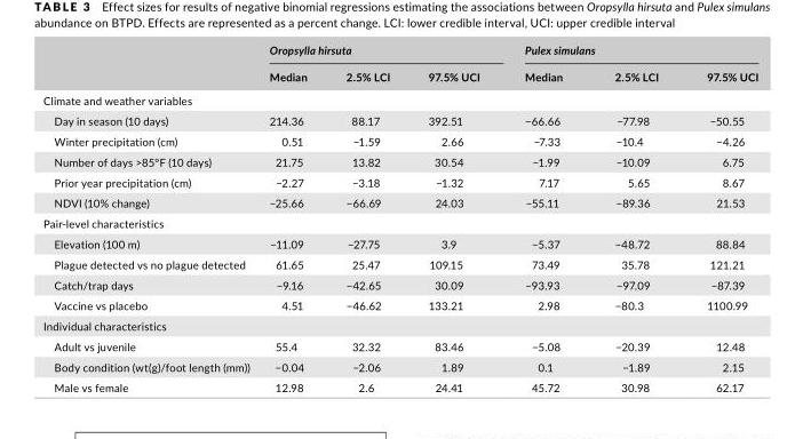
<table><thead><tr><td rowspan="2"></td><td colspan="3">Oropsylla hirsuta</td><td colspan="3">Pulex simulans</td></tr><tr><td>Median</td><td>2.5% LCI</td><td>97.5% UCI</td><td>Median</td><td>2.5% LCI</td><td>97.5% UCI</td></tr></thead><tbody><tr><td colspan="7">Climate and weather variables</td></tr><tr><td>Day in season (10 days)</td><td>214.36</td><td>88.17</td><td>392.51</td><td>−66.66</td><td>−77.98</td><td>−50.55</td></tr><tr><td>Winter precipitation (cm)</td><td>0.51</td><td>−1.59</td><td>2.66</td><td>−7.33</td><td>−10.4</td><td>−4.26</td></tr><tr><td>Number of days &gt;85°F (10 days)</td><td>21.75</td><td>13.82</td><td>30.54</td><td>−1.99</td><td>−10.09</td><td>6.75</td></tr><tr><td>Prior year precipitation (cm)</td><td>−2.27</td><td>−3.18</td><td>−1.32</td><td>7.17</td><td>5.65</td><td>8.67</td></tr><tr><td>NDVI (10% change)</td><td>−25.66</td><td>−66.69</td><td>24.03</td><td>−55.11</td><td>−89.36</td><td>21.53</td></tr><tr><td colspan="7">Pair- level characteristics</td></tr><tr><td>Elevation (100 m)</td><td>−11.09</td><td>−27.75</td><td>3.9</td><td>−5.37</td><td>−48.72</td><td>88.84</td></tr><tr><td>Plague detected vs no plague detected</td><td>61.65</td><td>25.47</td><td>109.15</td><td>73.49</td><td>35.78</td><td>121.21</td></tr><tr><td>Catch/trap days</td><td>−9.16</td><td>−42.65</td><td>30.09</td><td>−93.93</td><td>−97.09</td><td>−87.39</td></tr><tr><td>Vaccine vs placebo</td><td>4.51</td><td>−46.62</td><td>133.21</td><td>2.98</td><td>−80.3</td><td>1100.99</td></tr><tr><td colspan="7">Individual characteristics</td></tr><tr><td>Adult vs juvenile</td><td>55.4</td><td>32.32</td><td>83.46</td><td>−5.08</td><td>−20.39</td><td>12.48</td></tr><tr><td>Body condition (wt(g)/foot length (mm))</td><td>−0.04</td><td>−2.06</td><td>1.89</td><td>0.1</td><td>−1.89</td><td>2.15</td></tr><tr><td>Male vs female</td><td>12.98</td><td>2.6</td><td>24.41</td><td>45.72</td><td>30.98</td><td>62.17</td></tr></tbody></table>